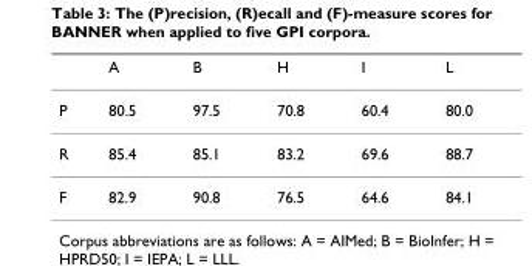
<table><thead><tr><td></td><td>A</td><td>B</td><td>H</td><td>I</td><td>L</td></tr></thead><tbody><tr><td>P</td><td>80.5</td><td>97.5</td><td>70.8</td><td>60.4</td><td>80.0</td></tr><tr><td>R</td><td>85.4</td><td>85.1</td><td>83.2</td><td>69.6</td><td>88.7</td></tr><tr><td>F</td><td>82.9</td><td>90.8</td><td>76.5</td><td>64.6</td><td>84.1</td></tr></tbody></table>